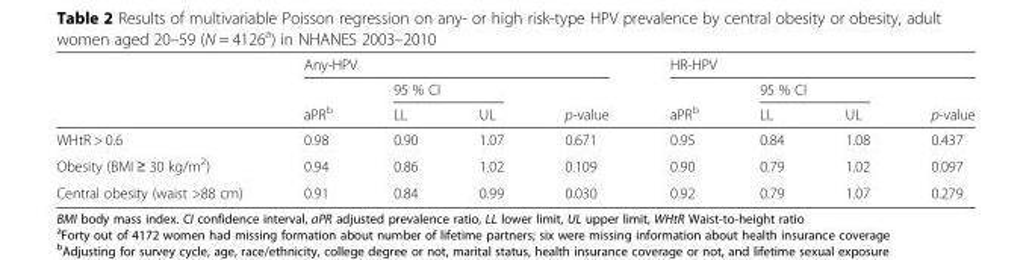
<table><thead><tr><td rowspan="3"></td><td colspan="4">Any-HPV</td><td colspan="4">HR-HPV</td></tr><tr><td rowspan="2">aPR<sup>b</sup></td><td colspan="2">95 % CI</td><td rowspan="2">p-value</td><td rowspan="2">aPR<sup>b</sup></td><td colspan="2">95 % CI</td><td rowspan="2">p-value</td></tr><tr><td>LL</td><td>UL</td><td>LL</td><td>UL</td></tr></thead><tbody><tr><td>WHtR &gt; 0.6</td><td>0.98</td><td>0.90</td><td>1.07</td><td>0.671</td><td>0.95</td><td>0.84</td><td>1.08</td><td>0.437</td></tr><tr><td>Obesity (BMI ≥ 30 kg/m<sup>2</sup>)</td><td>0.94</td><td>0.86</td><td>1.02</td><td>0.109</td><td>0.90</td><td>0.79</td><td>1.02</td><td>0.097</td></tr><tr><td>Central obesity (waist &gt;88 cm)</td><td>0.91</td><td>0.84</td><td>0.99</td><td>0.030</td><td>0.92</td><td>0.79</td><td>1.07</td><td>0.279</td></tr></tbody></table>